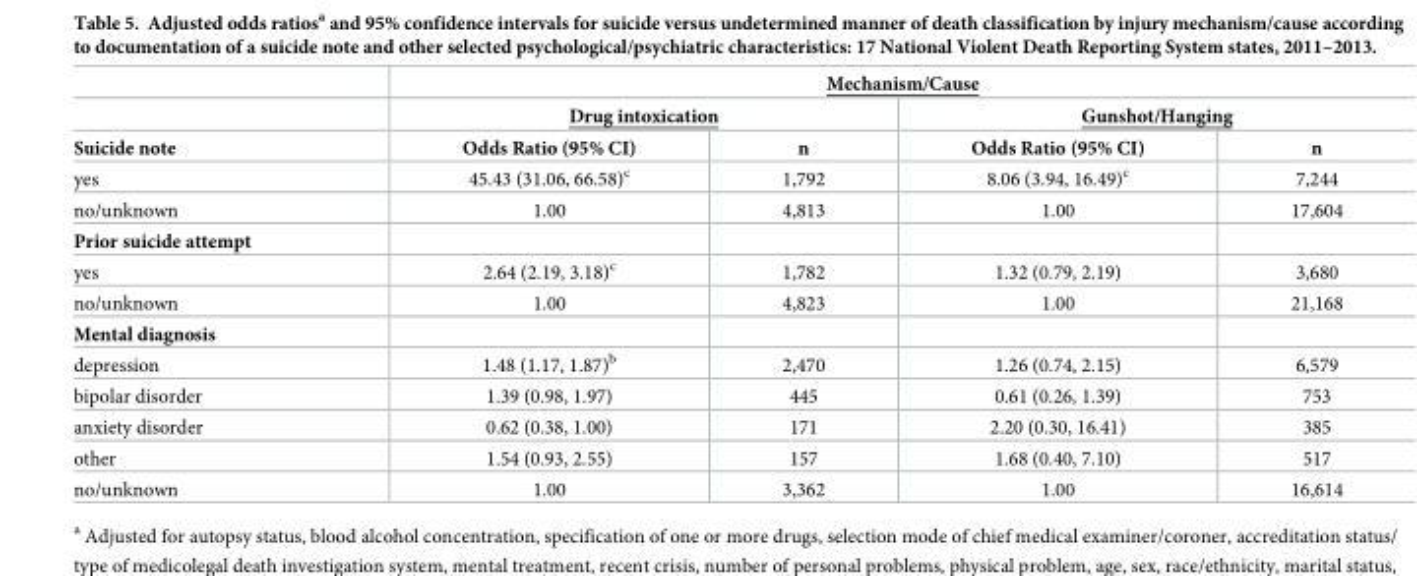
<table><thead><tr><td rowspan="3">Suicide note</td><td colspan="4">Mechanism/Cause</td></tr><tr><td colspan="2">Drug intoxication</td><td colspan="2">Gunshot/Hanging</td></tr><tr><td>Odds Ratio (95% CI)</td><td>n</td><td>Odds Ratio (95% CI)</td><td>n</td></tr></thead><tbody><tr><td>yes</td><td>45.43 (31.06, 66.58)<sup>c</sup></td><td>1,792</td><td>8.06 (3.94, 16.49)<sup>c</sup></td><td>7,244</td></tr><tr><td>no/unknown</td><td>1.00</td><td>4,813</td><td>1.00</td><td>17,604</td></tr><tr><td colspan="5">Prior suicide attempt</td></tr><tr><td>yes</td><td>2.64 (2.19, 3.18)<sup>c</sup></td><td>1,782</td><td>1.32 (0.79, 2.19)</td><td>3,680</td></tr><tr><td>no/unknown</td><td>1.00</td><td>4,823</td><td>1.00</td><td>21,168</td></tr><tr><td colspan="5">Mental diagnosis</td></tr><tr><td>depression</td><td>1.48 (1.17, 1.87)<sup>b</sup></td><td>2,470</td><td>1.26 (0.74, 2.15)</td><td>6,579</td></tr><tr><td>bipolar disorder</td><td>1.39 (0.98, 1.97)</td><td>445</td><td>0.61 (0.26, 1.39)</td><td>753</td></tr><tr><td>anxiety disorder</td><td>0.62 (0.38, 1.00)</td><td>171</td><td>2.20 (0.30, 16.41)</td><td>385</td></tr><tr><td>other</td><td>1.54 (0.93, 2.55)</td><td>157</td><td>1.68 (0.40, 7.10)</td><td>517</td></tr><tr><td>no/unknown</td><td>1.00</td><td>3,362</td><td>1.00</td><td>16,614</td></tr></tbody></table>